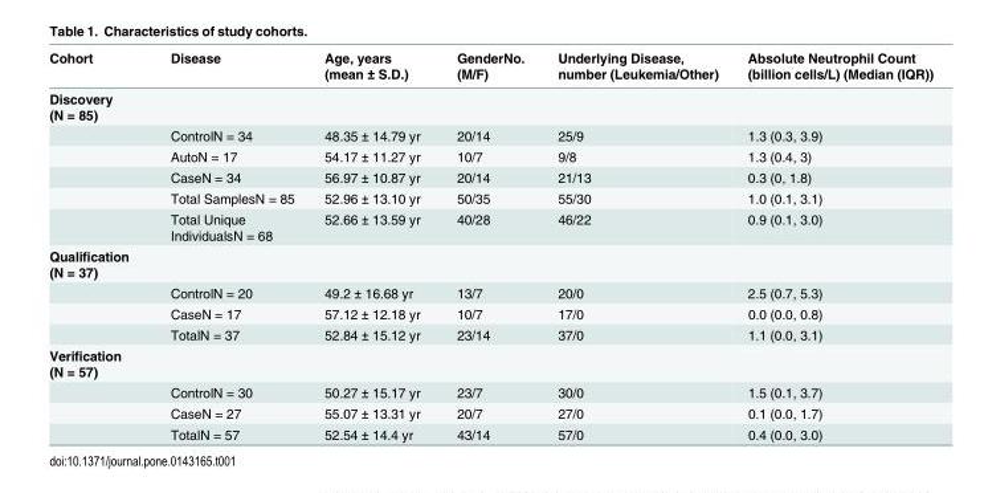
<table><thead><tr><td>Cohort</td><td>Disease</td><td>Age, years (mean ± S.D.)</td><td>GenderNo. (M/F)</td><td>Underlying Disease, number (Leukemia/Other)</td><td>Absolute Neutrophil Count (billion cells/L) (Median (IQR))</td></tr></thead><tbody><tr><td colspan="6">Discovery (N = 85)</td></tr><tr><td></td><td>ControlN = 34</td><td>48.35 ± 14.79 yr</td><td>20/14</td><td>25/9</td><td>1.3 (0.3, 3.9)</td></tr><tr><td></td><td>AutoN = 17</td><td>54.17 ± 11.27 yr</td><td>10/7</td><td>9/8</td><td>1.3 (0.4, 3)</td></tr><tr><td></td><td>CaseN = 34</td><td>56.97 ± 10.87 yr</td><td>20/14</td><td>21/13</td><td>0.3 (0, 1.8)</td></tr><tr><td></td><td>Total SamplesN = 85</td><td>52.96 ± 13.10 yr</td><td>50/35</td><td>55/30</td><td>1.0 (0.1, 3.1)</td></tr><tr><td></td><td>Total Unique IndividualsN = 68</td><td>52.66 ± 13.59 yr</td><td>40/28</td><td>46/22</td><td>0.9 (0.1, 3.0)</td></tr><tr><td colspan="6">Qualification (N = 37)</td></tr><tr><td></td><td>ControlN = 20</td><td>49.2 ± 16.68 yr</td><td>13/7</td><td>20/0</td><td>2.5 (0.7, 5.3)</td></tr><tr><td></td><td>CaseN = 17</td><td>57.12 ± 12.18 yr</td><td>10/7</td><td>17/0</td><td>0.0 (0.0, 0.8)</td></tr><tr><td></td><td>TotalN = 37</td><td>52.84 ± 15.12 yr</td><td>23/14</td><td>37/0</td><td>1.1 (0.0, 3.1)</td></tr><tr><td colspan="6">Verification (N = 57)</td></tr><tr><td></td><td>ControlN = 30</td><td>50.27 ± 15.17 yr</td><td>23/7</td><td>30/0</td><td>1.5 (0.1, 3.7)</td></tr><tr><td></td><td>CaseN = 27</td><td>55.07 ± 13.31 yr</td><td>20/7</td><td>27/0</td><td>0.1 (0.0, 1.7)</td></tr><tr><td></td><td>TotalN = 57</td><td>52.54 ± 14.4 yr</td><td>43/14</td><td>57/0</td><td>0.4 (0.0, 3.0)</td></tr></tbody></table>